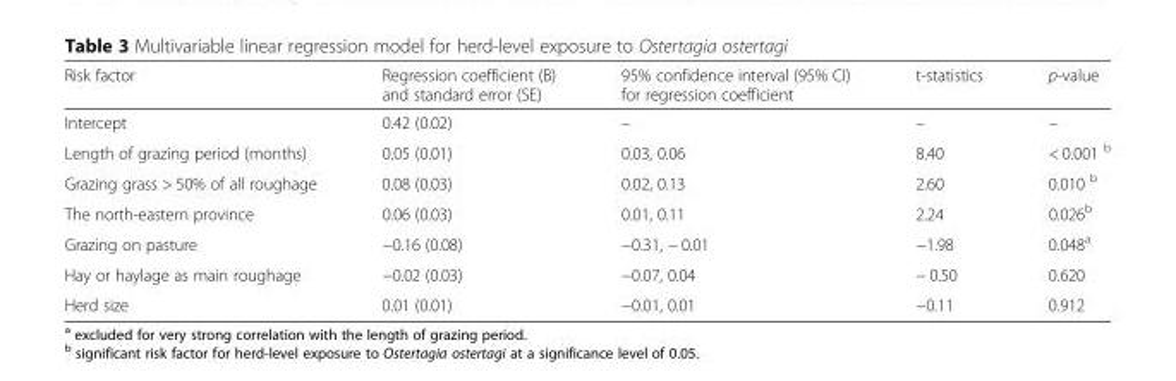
<table><thead><tr><td>Risk factor</td><td>Regression coefficient (B) and standard error (SE)</td><td>95% confidence interval (95% CI) for regression coefficient</td><td>t-statistics</td><td>p-value</td></tr></thead><tbody><tr><td>Intercept</td><td>0.42 (0.02)</td><td>–</td><td>–</td><td>–</td></tr><tr><td>Length of grazing period (months)</td><td>0.05 (0.01)</td><td>0.03, 0.06</td><td>8.40</td><td>&lt; 0.001 <sup>b</sup></td></tr><tr><td>Grazing grass &gt; 50% of all roughage</td><td>0.08 (0.03)</td><td>0.02, 0.13</td><td>2.60</td><td>0.010 <sup>b</sup></td></tr><tr><td>The north-eastern province</td><td>0.06 (0.03)</td><td>0.01, 0.11</td><td>2.24</td><td>0.026<sup>b</sup></td></tr><tr><td>Grazing on pasture</td><td>−0.16 (0.08)</td><td>−0.31, − 0.01</td><td>−1.98</td><td>0.048<sup>a</sup></td></tr><tr><td>Hay or haylage as main roughage</td><td>−0.02 (0.03)</td><td>−0.07, 0.04</td><td>− 0.50</td><td>0.620</td></tr><tr><td>Herd size</td><td>0.01 (0.01)</td><td>−0.01, 0.01</td><td>−0.11</td><td>0.912</td></tr></tbody></table>